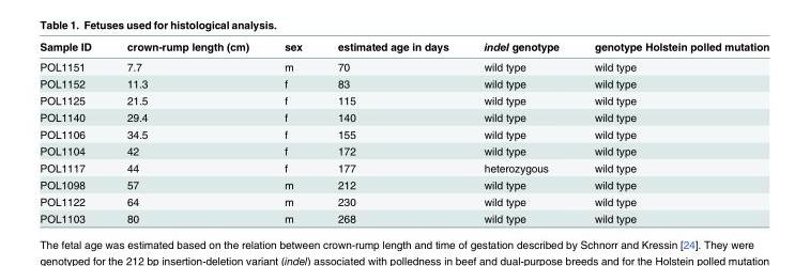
<table><thead><tr><td>Sample ID</td><td>crown-rump length (cm)</td><td>sex</td><td>estimated age in days</td><td>indel genotype</td><td>genotype Holstein polled mutation</td></tr></thead><tbody><tr><td>POL1151</td><td>7.7</td><td>m</td><td>70</td><td>wild type</td><td>wild type</td></tr><tr><td>POL1152</td><td>11.3</td><td>f</td><td>83</td><td>wild type</td><td>wild type</td></tr><tr><td>POL1125</td><td>21.5</td><td>f</td><td>115</td><td>wild type</td><td>wild type</td></tr><tr><td>POL1140</td><td>29.4</td><td>f</td><td>140</td><td>wild type</td><td>wild type</td></tr><tr><td>POL1106</td><td>34.5</td><td>f</td><td>155</td><td>wild type</td><td>wild type</td></tr><tr><td>POL1104</td><td>42</td><td>f</td><td>172</td><td>wild type</td><td>wild type</td></tr><tr><td>POL1117</td><td>44</td><td>f</td><td>177</td><td>heterozygous</td><td>wild type</td></tr><tr><td>POL1098</td><td>57</td><td>m</td><td>212</td><td>wild type</td><td>wild type</td></tr><tr><td>POL1122</td><td>64</td><td>m</td><td>230</td><td>wild type</td><td>wild type</td></tr><tr><td>POL1103</td><td>80</td><td>m</td><td>268</td><td>wild type</td><td>wild type</td></tr></tbody></table>